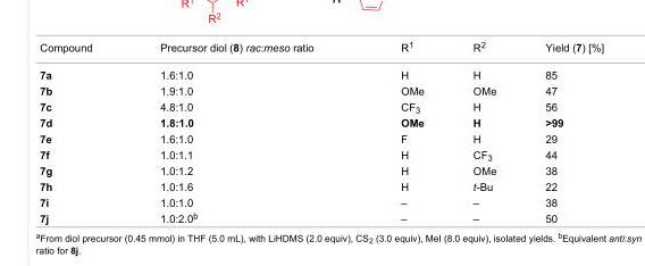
<table><tbody><tr><td>Compound</td><td>Precursor diol (8) rac:meso ratio</td><td>R<sup>1</sup></td><td>R<sup>2</sup></td><td>Yield (7) [%]</td></tr><tr><td>7a</td><td>1.6:1.0</td><td>H</td><td>H</td><td>85</td></tr><tr><td>7b</td><td>1.9:1.0</td><td>OMe</td><td>OMe</td><td>47</td></tr><tr><td>7c</td><td>4.8:1.0</td><td>CF<sub>3</sub></td><td>H</td><td>56</td></tr><tr><td>7d</td><td>1.8:1.0</td><td>OMe</td><td>H</td><td>&gt;99</td></tr><tr><td>7e</td><td>1.6:1.0</td><td>F</td><td>H</td><td>29</td></tr><tr><td>7f</td><td>1.0:1.1</td><td>H</td><td>CF<sub>3</sub></td><td>44</td></tr><tr><td>7g</td><td>1.0:1.2</td><td>H</td><td>OMe</td><td>38</td></tr><tr><td>7h</td><td>1.0:1.6</td><td>H</td><td>t-Bu</td><td>22</td></tr><tr><td>7i</td><td>1.0:1.0</td><td>–</td><td>–</td><td>38</td></tr><tr><td>7j</td><td>1.0:2.0<sup>b</sup></td><td>–</td><td>–</td><td>50</td></tr></tbody></table>